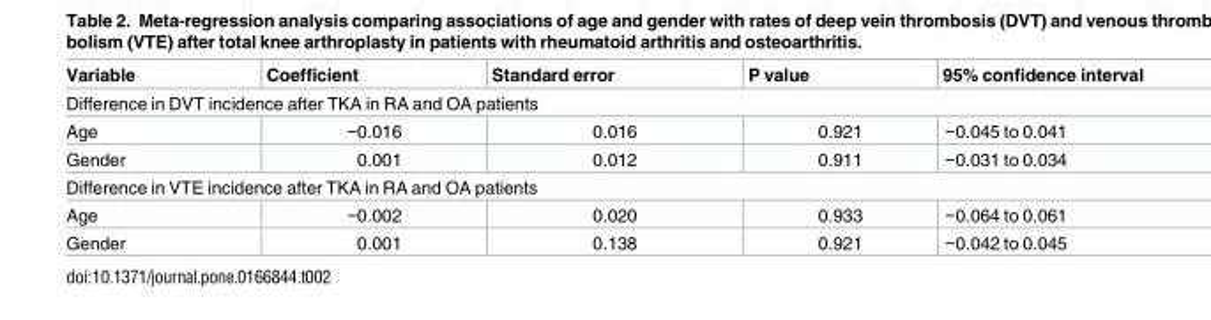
<table><thead><tr><td>Variable</td><td>Coefficient</td><td>Standard error</td><td>P value</td><td>95% confidence interval</td></tr></thead><tbody><tr><td colspan="5">Difference in DVT incidence after TKA in RA and OA patients</td></tr><tr><td>Age</td><td>−0.016</td><td>0.016</td><td>0.921</td><td>−0.045 to 0.041</td></tr><tr><td>Gender</td><td>0.001</td><td>0.012</td><td>0.911</td><td>−0.031 to 0.034</td></tr><tr><td colspan="5">Difference in VTE incidence after TKA in RA and OA patients</td></tr><tr><td>Age</td><td>−0.002</td><td>0.020</td><td>0.933</td><td>−0.064 to 0.061</td></tr><tr><td>Gender</td><td>0.001</td><td>0.138</td><td>0.921</td><td>−0.042 to 0.045</td></tr></tbody></table>